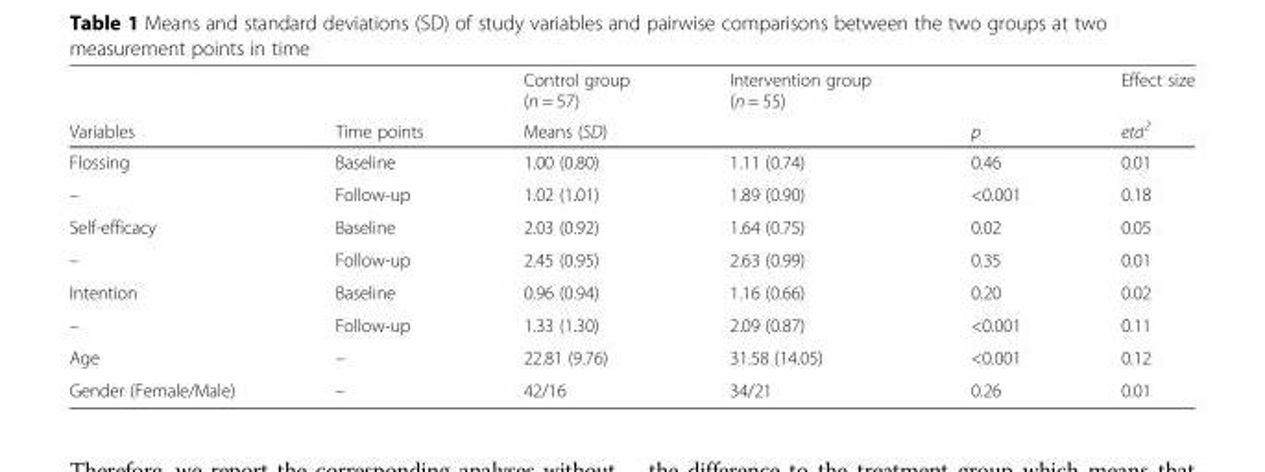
<table><thead><tr><td rowspan="2">Variables</td><td rowspan="2">Time points</td><td>Control group (n = 57)</td><td>Intervention group (n = 55)</td><td rowspan="2">p</td><td rowspan="2">Effect size eta<sup>2</sup></td></tr><tr><td colspan="2">Means (SD)</td></tr></thead><tbody><tr><td>Flossing</td><td>Baseline</td><td>1.00 (0.80)</td><td>1.11 (0.74)</td><td>0.46</td><td>0.01</td></tr><tr><td>–</td><td>Follow-up</td><td>1.02 (1.01)</td><td>1.89 (0.90)</td><td>&lt;0.001</td><td>0.18</td></tr><tr><td>Self-efficacy</td><td>Baseline</td><td>2.03 (0.92)</td><td>1.64 (0.75)</td><td>0.02</td><td>0.05</td></tr><tr><td>–</td><td>Follow-up</td><td>2.45 (0.95)</td><td>2.63 (0.99)</td><td>0.35</td><td>0.01</td></tr><tr><td>Intention</td><td>Baseline</td><td>0.96 (0.94)</td><td>1.16 (0.66)</td><td>0.20</td><td>0.02</td></tr><tr><td>–</td><td>Follow-up</td><td>1.33 (1.30)</td><td>2.09 (0.87)</td><td>&lt;0.001</td><td>0.11</td></tr><tr><td>Age</td><td>–</td><td>22.81 (9.76)</td><td>31.58 (14.05)</td><td>&lt;0.001</td><td>0.12</td></tr><tr><td>Gender (Female/Male)</td><td>–</td><td>42/16</td><td>34/21</td><td>0.26</td><td>0.01</td></tr></tbody></table>